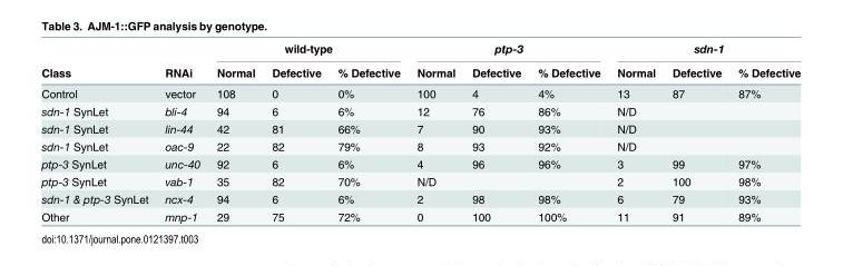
<table><thead><tr><td rowspan="2">Class</td><td rowspan="2">RNAi</td><td colspan="3">wild-type</td><td colspan="3">ptp-3</td><td colspan="3">sdn-1</td></tr><tr><td>Normal</td><td>Defective</td><td>% Defective</td><td>Normal</td><td>Defective</td><td>% Defective</td><td>Normal</td><td>Defective</td><td>% Defective</td></tr></thead><tbody><tr><td>Control</td><td>vector</td><td>108</td><td>0</td><td>0%</td><td>100</td><td>4</td><td>4%</td><td>13</td><td>87</td><td>87%</td></tr><tr><td>sdn-1 SynLet</td><td>bli-4</td><td>94</td><td>6</td><td>6%</td><td>12</td><td>76</td><td>86%</td><td colspan="3">N/D</td></tr><tr><td>sdn-1 SynLet</td><td>lin-44</td><td>42</td><td>81</td><td>66%</td><td>7</td><td>90</td><td>93%</td><td colspan="3">N/D</td></tr><tr><td>sdn-1 SynLet</td><td>oac-9</td><td>22</td><td>82</td><td>79%</td><td>8</td><td>93</td><td>92%</td><td colspan="3">N/D</td></tr><tr><td>ptp-3 SynLet</td><td>unc-40</td><td>92</td><td>6</td><td>6%</td><td>4</td><td>96</td><td>96%</td><td>3</td><td>99</td><td>97%</td></tr><tr><td>ptp-3 SynLet</td><td>vab-1</td><td>35</td><td>82</td><td>70%</td><td colspan="3">N/D</td><td>2</td><td>100</td><td>98%</td></tr><tr><td>sdn-1 &amp; ptp-3 SynLet</td><td>ncx-4</td><td>94</td><td>6</td><td>6%</td><td>2</td><td>98</td><td>98%</td><td>6</td><td>79</td><td>93%</td></tr><tr><td>Other</td><td>mnp-1</td><td>29</td><td>75</td><td>72%</td><td>0</td><td>100</td><td>100%</td><td>11</td><td>91</td><td>89%</td></tr></tbody></table>